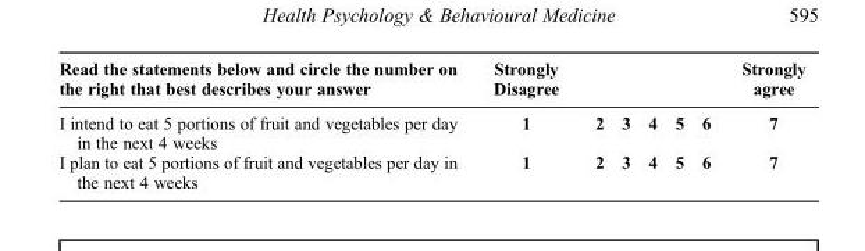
<table><thead><tr><td>Read the statements below and circle the number on the right that best describes your answer</td><td>Strongly Disagree</td><td></td><td></td><td></td><td></td><td></td><td>Strongly agree</td></tr></thead><tbody><tr><td>I intend to eat 5 portions of fruit and vegetables per day in the next 4 weeks</td><td>1</td><td>2</td><td>3</td><td>4</td><td>5</td><td>6</td><td>7</td></tr><tr><td>I plan to eat 5 portions of fruit and vegetables per day in the next 4 weeks</td><td>1</td><td>2</td><td>3</td><td>4</td><td>5</td><td>6</td><td>7</td></tr></tbody></table>